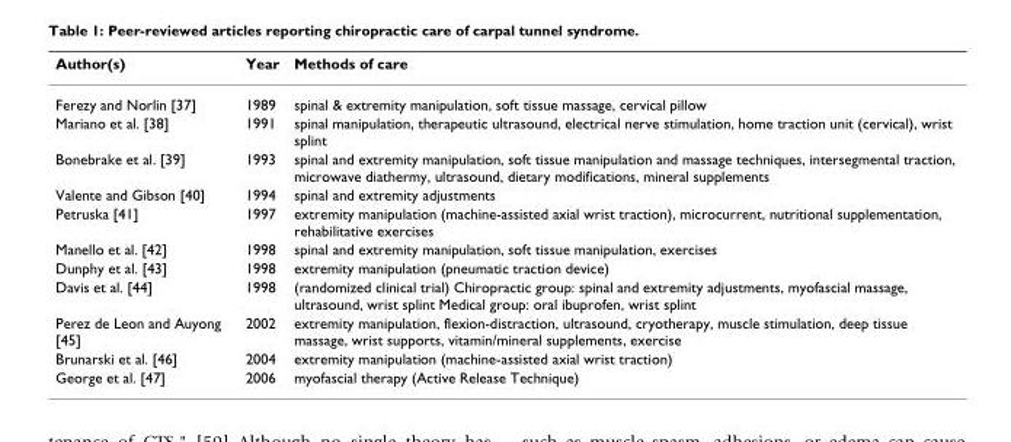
<table><thead><tr><td>Author(s)</td><td>Year</td><td>Methods of care</td></tr></thead><tbody><tr><td>Ferezy and Norlin [37]</td><td>1989</td><td>spinal &amp; extremity manipulation, soft tissue massage, cervical pillow</td></tr><tr><td>Mariano et al. [38]</td><td>1991</td><td>spinal manipulation, therapeutic ultrasound, electrical nerve stimulation, home traction unit (cervical), wrist splint</td></tr><tr><td>Bonebrake et al. [39]</td><td>1993</td><td>spinal and extremity manipulation, soft tissue manipulation and massage techniques, intersegmental traction, microwave diathermy, ultrasound, dietary modifications, mineral supplements</td></tr><tr><td>Valente and Gibson [40]</td><td>1994</td><td>spinal and extremity adjustments</td></tr><tr><td>Petruska [41]</td><td>1997</td><td>extremity manipulation (machine-assisted axial wrist traction), microcurrent, nutritional supplementation, rehabilitative exercises</td></tr><tr><td>Manello et al. [42]</td><td>1998</td><td>spinal and extremity manipulation, soft tissue manipulation, exercises</td></tr><tr><td>Dunphy et al. [43]</td><td>1998</td><td>extremity manipulation (pneumatic traction device)</td></tr><tr><td>Davis et al. [44]</td><td>1998</td><td>(randomized clinical trial) Chiropractic group: spinal and extremity adjustments, myofascial massage, ultrasound, wrist splint Medical group: oral ibuprofen, wrist splint</td></tr><tr><td>Perez de Leon and Auyong [45]</td><td>2002</td><td>extremity manipulation, flexion-distraction, ultrasound, cryotherapy, muscle stimulation, deep tissue massage, wrist supports, vitamin/mineral supplements, exercise</td></tr><tr><td>Brunarski et al. [46]</td><td>2004</td><td>extremity manipulation (machine-assisted axial wrist traction)</td></tr><tr><td>George et al. [47]</td><td>2006</td><td>myofascial therapy (Active Release Technique)</td></tr></tbody></table>